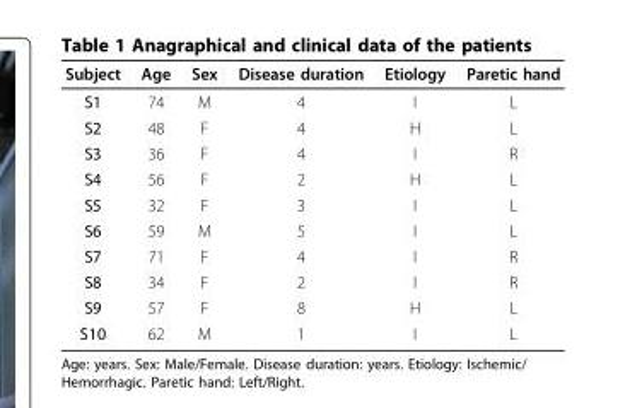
<table><thead><tr><td>Subject</td><td>Age</td><td>Sex</td><td>Disease duration</td><td>Etiology</td><td>Paretic hand</td></tr></thead><tbody><tr><td>S1</td><td>74</td><td>M</td><td>4</td><td>I</td><td>L</td></tr><tr><td>S2</td><td>48</td><td>F</td><td>4</td><td>H</td><td>L</td></tr><tr><td>S3</td><td>36</td><td>F</td><td>4</td><td>I</td><td>R</td></tr><tr><td>S4</td><td>56</td><td>F</td><td>2</td><td>H</td><td>L</td></tr><tr><td>S5</td><td>32</td><td>F</td><td>3</td><td>I</td><td>L</td></tr><tr><td>S6</td><td>59</td><td>M</td><td>5</td><td>I</td><td>L</td></tr><tr><td>S7</td><td>71</td><td>F</td><td>4</td><td>I</td><td>R</td></tr><tr><td>S8</td><td>34</td><td>F</td><td>2</td><td>I</td><td>R</td></tr><tr><td>S9</td><td>57</td><td>F</td><td>8</td><td>H</td><td>L</td></tr><tr><td>S10</td><td>62</td><td>M</td><td>1</td><td>I</td><td>L</td></tr></tbody></table>